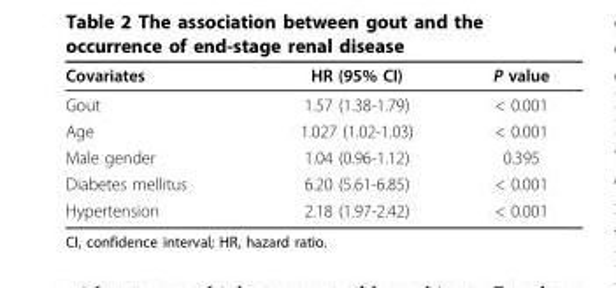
<table><thead><tr><td>Covariates</td><td>HR (95% CI)</td><td>P value</td></tr></thead><tbody><tr><td>Gout</td><td>1.57 (1.38-1.79)</td><td>&lt; 0.001</td></tr><tr><td>Age</td><td>1.027 (1.02-1.03)</td><td>&lt; 0.001</td></tr><tr><td>Male gender</td><td>1.04 (0.96-1.12)</td><td>0.395</td></tr><tr><td>Diabetes mellitus</td><td>6.20 (5.61-6.85)</td><td>&lt; 0.001</td></tr><tr><td>Hypertension</td><td>2.18 (1.97-2.42)</td><td>&lt; 0.001</td></tr></tbody></table>